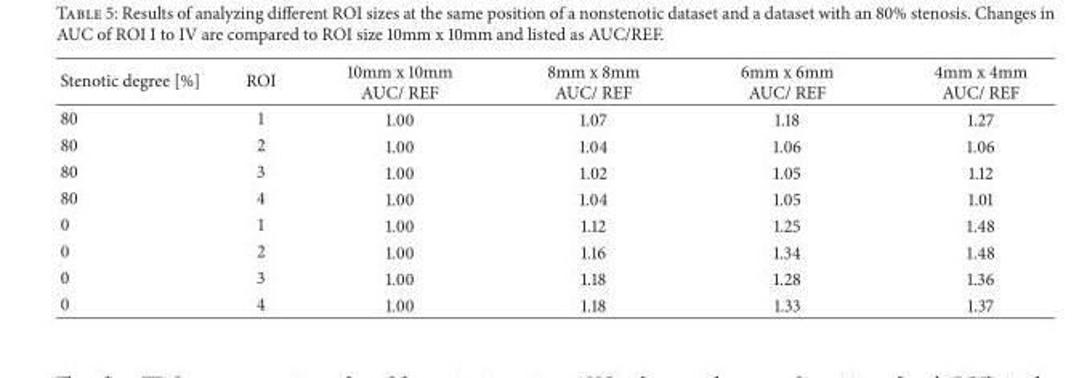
<table><thead><tr><td>Stenotic degree [%]</td><td>ROI</td><td>10mm x 10mm AUC/ REF</td><td>8mm x 8mm AUC/ REF</td><td>6mm x 6mm AUC/ REF</td><td>4mm x 4mm AUC/ REF</td></tr></thead><tbody><tr><td>80</td><td>1</td><td>1.00</td><td>1.07</td><td>1.18</td><td>1.27</td></tr><tr><td>80</td><td>2</td><td>1.00</td><td>1.04</td><td>1.06</td><td>1.06</td></tr><tr><td>80</td><td>3</td><td>1.00</td><td>1.02</td><td>1.05</td><td>1.12</td></tr><tr><td>80</td><td>4</td><td>1.00</td><td>1.04</td><td>1.05</td><td>1.01</td></tr><tr><td>0</td><td>1</td><td>1.00</td><td>1.12</td><td>1.25</td><td>1.48</td></tr><tr><td>0</td><td>2</td><td>1.00</td><td>1.16</td><td>1.34</td><td>1.48</td></tr><tr><td>0</td><td>3</td><td>1.00</td><td>1.18</td><td>1.28</td><td>1.36</td></tr><tr><td>0</td><td>4</td><td>1.00</td><td>1.18</td><td>1.33</td><td>1.37</td></tr></tbody></table>